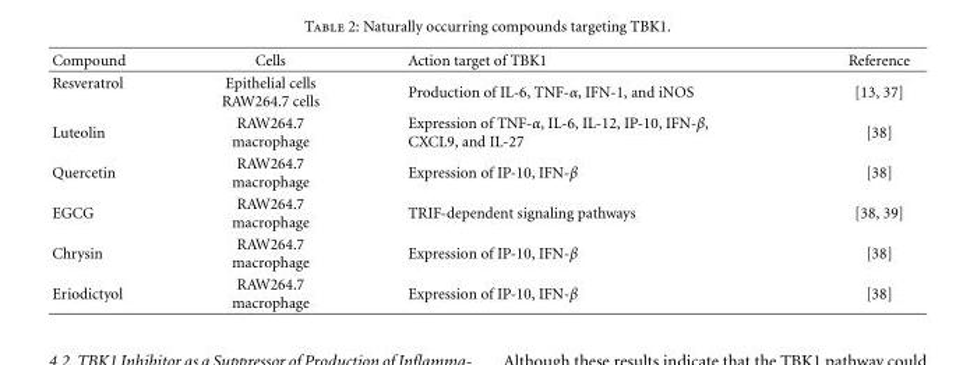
<table><thead><tr><td>Compound</td><td>Cells</td><td>Action target of TBK1</td><td>Reference</td></tr></thead><tbody><tr><td>Resveratrol</td><td>Epithelial cells RAW264.7 cells</td><td>Production of IL-6, TNF-α, IFN-1, and iNOS</td><td>[13, 37]</td></tr><tr><td>Luteolin</td><td>RAW264.7 macrophage</td><td>Expression of TNF-α, IL-6, IL-12, IP-10, IFN-β, CXCL9, and IL-27</td><td>[38]</td></tr><tr><td>Quercetin</td><td>RAW264.7 macrophage</td><td>Expression of IP-10, IFN-β</td><td>[38]</td></tr><tr><td>EGCG</td><td>RAW264.7 macrophage</td><td>TRIF-dependent signaling pathways</td><td>[38, 39]</td></tr><tr><td>Chrysin</td><td>RAW264.7 macrophage</td><td>Expression of IP-10, IFN-β</td><td>[38]</td></tr><tr><td>Eriodictyol</td><td>RAW264.7 macrophage</td><td>Expression of IP-10, IFN-β</td><td>[38]</td></tr></tbody></table>